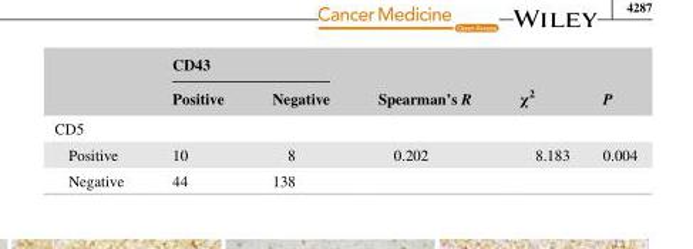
<table><thead><tr><td rowspan="2"></td><td colspan="2">CD43</td><td rowspan="2">Spearman’s R</td><td rowspan="2">χ<sup>2</sup></td><td rowspan="2">P</td></tr><tr><td>Positive</td><td>Negative</td></tr></thead><tbody><tr><td colspan="6">CD5</td></tr><tr><td>Positive</td><td>10</td><td>8</td><td>0.202</td><td>8.183</td><td>0.004</td></tr><tr><td>Negative</td><td>44</td><td>138</td><td></td><td></td><td></td></tr></tbody></table>